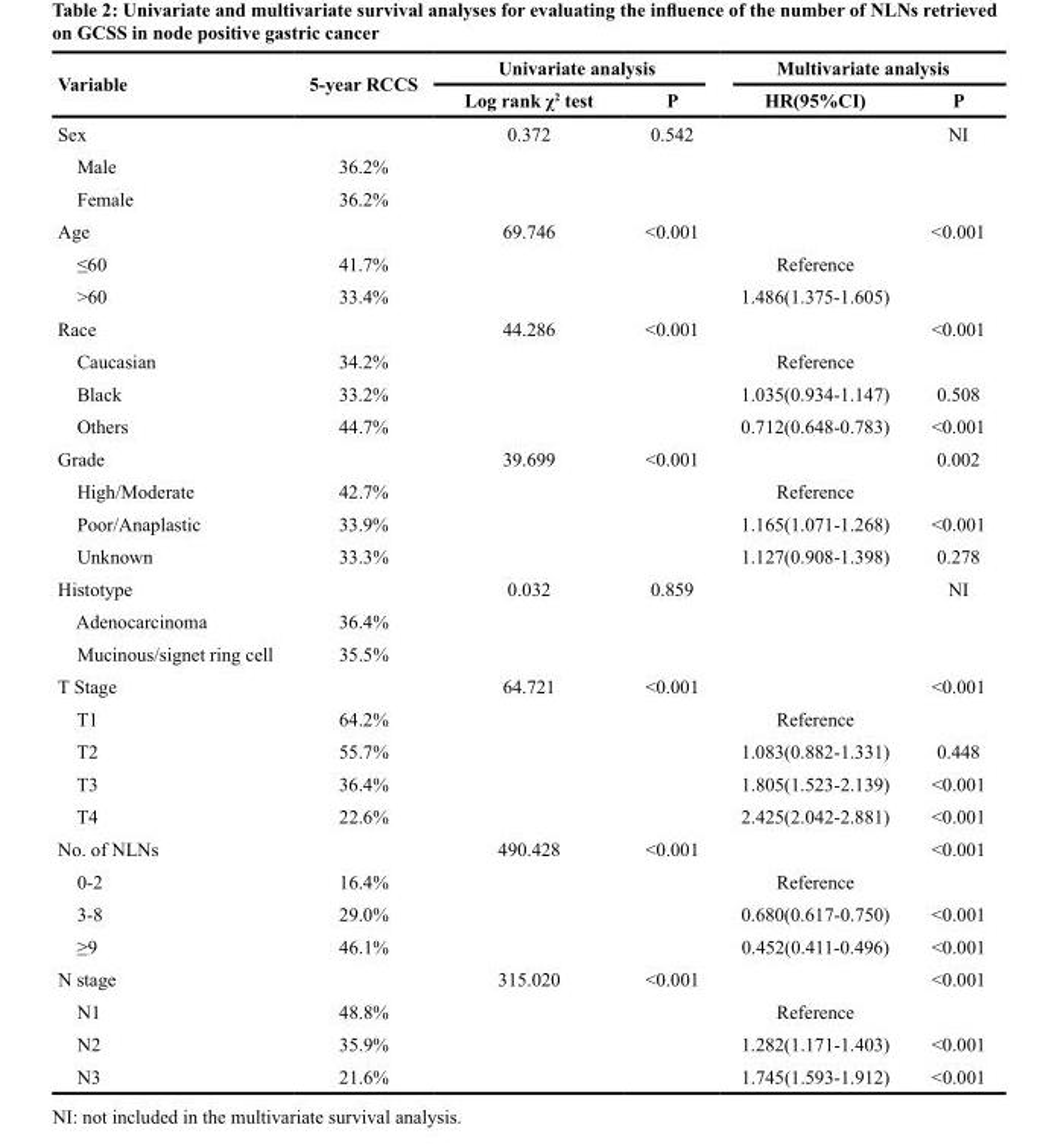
<table><thead><tr><td rowspan="2">Variable</td><td rowspan="2">5-year RCCS</td><td colspan="2">Univariate analysis</td><td colspan="2">Multivariate analysis</td></tr><tr><td>Log rank χ<sup>2</sup> test</td><td>P</td><td>HR(95%CI)</td><td>P</td></tr></thead><tbody><tr><td>Sex</td><td></td><td>0.372</td><td>0.542</td><td></td><td>NI</td></tr><tr><td>Male</td><td>36.2%</td><td></td><td></td><td></td><td></td></tr><tr><td>Female</td><td>36.2%</td><td></td><td></td><td></td><td></td></tr><tr><td>Age</td><td></td><td>69.746</td><td>&lt;0.001</td><td></td><td>&lt;0.001</td></tr><tr><td>≤60</td><td>41.7%</td><td></td><td></td><td>Reference</td><td></td></tr><tr><td>&gt;60</td><td>33.4%</td><td></td><td></td><td>1.486(1.375-1.605)</td><td></td></tr><tr><td>Race</td><td></td><td>44.286</td><td>&lt;0.001</td><td></td><td>&lt;0.001</td></tr><tr><td>Caucasian</td><td>34.2%</td><td></td><td></td><td>Reference</td><td></td></tr><tr><td>Black</td><td>33.2%</td><td></td><td></td><td>1.035(0.934-1.147)</td><td>0.508</td></tr><tr><td>Others</td><td>44.7%</td><td></td><td></td><td>0.712(0.648-0.783)</td><td>&lt;0.001</td></tr><tr><td>Grade</td><td></td><td>39.699</td><td>&lt;0.001</td><td></td><td>0.002</td></tr><tr><td>High/Moderate</td><td>42.7%</td><td></td><td></td><td>Reference</td><td></td></tr><tr><td>Poor/Anaplastic</td><td>33.9%</td><td></td><td></td><td>1.165(1.071-1.268)</td><td>&lt;0.001</td></tr><tr><td>Unknown</td><td>33.3%</td><td></td><td></td><td>1.127(0.908-1.398)</td><td>0.278</td></tr><tr><td>Histotype</td><td></td><td>0.032</td><td>0.859</td><td></td><td>NI</td></tr><tr><td>Adenocarcinoma</td><td>36.4%</td><td></td><td></td><td></td><td></td></tr><tr><td>Mucinous/signet ring cell</td><td>35.5%</td><td></td><td></td><td></td><td></td></tr><tr><td>T Stage</td><td></td><td>64.721</td><td>&lt;0.001</td><td></td><td>&lt;0.001</td></tr><tr><td>T1</td><td>64.2%</td><td></td><td></td><td>Reference</td><td></td></tr><tr><td>T2</td><td>55.7%</td><td></td><td></td><td>1.083(0.882-1.331)</td><td>0.448</td></tr><tr><td>T3</td><td>36.4%</td><td></td><td></td><td>1.805(1.523-2.139)</td><td>&lt;0.001</td></tr><tr><td>T4</td><td>22.6%</td><td></td><td></td><td>2.425(2.042-2.881)</td><td>&lt;0.001</td></tr><tr><td>No. of NLNs</td><td></td><td>490.428</td><td>&lt;0.001</td><td></td><td>&lt;0.001</td></tr><tr><td>0-2</td><td>16.4%</td><td></td><td></td><td>Reference</td><td></td></tr><tr><td>3-8</td><td>29.0%</td><td></td><td></td><td>0.680(0.617-0.750)</td><td>&lt;0.001</td></tr><tr><td>≥9</td><td>46.1%</td><td></td><td></td><td>0.452(0.411-0.496)</td><td>&lt;0.001</td></tr><tr><td>N stage</td><td></td><td>315.020</td><td>&lt;0.001</td><td></td><td>&lt;0.001</td></tr><tr><td>N1</td><td>48.8%</td><td></td><td></td><td>Reference</td><td></td></tr><tr><td>N2</td><td>35.9%</td><td></td><td></td><td>1.282(1.171-1.403)</td><td>&lt;0.001</td></tr><tr><td>N3</td><td>21.6%</td><td></td><td></td><td>1.745(1.593-1.912)</td><td>&lt;0.001</td></tr></tbody></table>